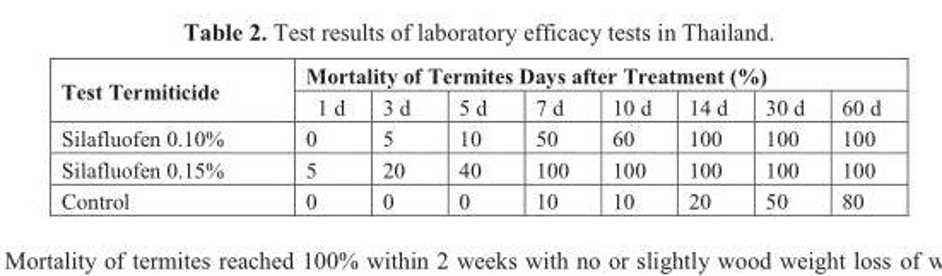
<table><thead><tr><td rowspan="2">Test Termiticide</td><td colspan="8">Mortality of Termites Days after Treatment (%)</td></tr><tr><td>1 d</td><td>3 d</td><td>5 d</td><td>7 d</td><td>10 d</td><td>14 d</td><td>30 d</td><td>60 d</td></tr></thead><tbody><tr><td>Silafluofen 0.10%</td><td>0</td><td>5</td><td>10</td><td>50</td><td>60</td><td>100</td><td>100</td><td>100</td></tr><tr><td>Silafluofen 0.15%</td><td>5</td><td>20</td><td>40</td><td>100</td><td>100</td><td>100</td><td>100</td><td>100</td></tr><tr><td>Control</td><td>0</td><td>0</td><td>0</td><td>10</td><td>10</td><td>20</td><td>50</td><td>80</td></tr></tbody></table>